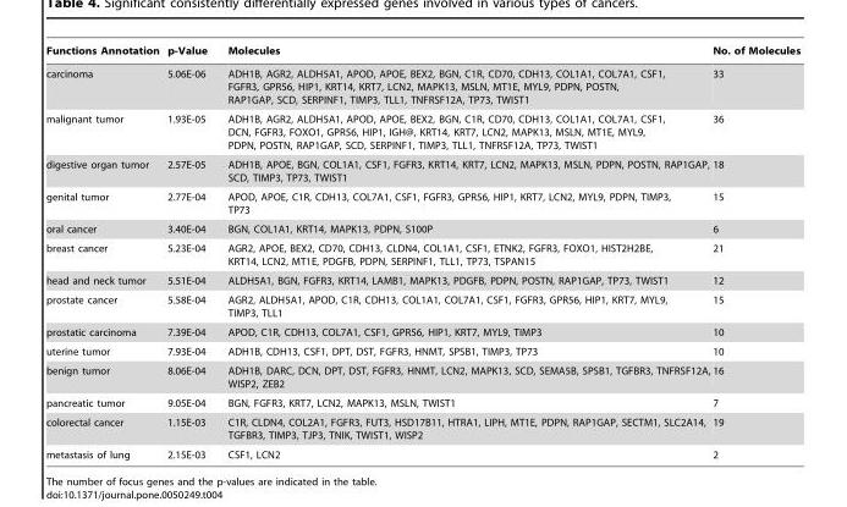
<table><thead><tr><td>Functions Annotation</td><td>p-Value</td><td>Molecules</td><td>No. of Molecules</td></tr></thead><tbody><tr><td>carcinoma</td><td>5.06E-06</td><td>ADH1B, AGR2, ALDH5A1, APOD, APOE, BEX2, BGN, C1R, CD70, CDH13, COL1A1, COL7A1, CSF1, FGFR3, GPR56, HIP1, KRT14, KRT7, LCN2, MAPK13, MSLN, MT1E, MYL9, PDPN, POSTN, RAP1GAP, SCD, SERPINF1, TIMP3, TLL1, TNFRSF12A, TP73, TWIST1</td><td>33</td></tr><tr><td>malignant tumor</td><td>1.93E-05</td><td>ADH1B, AGR2, ALDH5A1, APOD, APOE, BEX2, BGN, C1R, CD70, CDH13, COL1A1, COL7A1, CSF1, DCN, FGFR3, FOXO1, GPR56, HIP1, IGH@, KRT14, KRT7, LCN2, MAPK13, MSLN, MT1E, MYL9, PDPN, POSTN, RAP1GAP, SCD, SERPINF1, TIMP3, TLL1, TNFRSF12A, TP73, TWIST1</td><td>36</td></tr><tr><td>digestive organ tumor</td><td>2.57E-05</td><td>ADH1B, APOE, BGN, COL1A1, CSF1, FGFR3, KRT14, KRT7, LCN2, MAPK13, MSLN, PDPN, POSTN, RAP1GAP, SCD, TIMP3, TP73, TWIST1</td><td>18</td></tr><tr><td>genital tumor</td><td>2.77E-04</td><td>APOD, APOE, C1R, CDH13, COL7A1, CSF1, FGFR3, GPR56, HIP1, KRT7, LCN2, MYL9, PDPN, TIMP3, TP73</td><td>15</td></tr><tr><td>oral cancer</td><td>3.40E-04</td><td>BGN, COL1A1, KRT14, MAPK13, PDPN, S100P</td><td>6</td></tr><tr><td>breast cancer</td><td>5.23E-04</td><td>AGR2, APOE, BEX2, CD70, CDH13, CLDN4, COL1A1, CSF1, ETNK2, FGFR3, FOXO1, HIST2H2BE, KRT14, LCN2, MT1E, PDGFB, PDPN, SERPINF1, TLL1, TP73, TSPAN15</td><td>21</td></tr><tr><td>head and neck tumor</td><td>5.51E-04</td><td>ALDH5A1, BGN, FGFR3, KRT14, LAMB1, MAPK13, PDGFB, PDPN, POSTN, RAP1GAP, TP73, TWIST1</td><td>12</td></tr><tr><td>prostate cancer</td><td>5.58E-04</td><td>AGR2, ALDH5A1, APOD, C1R, CDH13, COL1A1, COL7A1, CSF1, FGFR3, GPR56, HIP1, KRT7, MYL9, TIMP3, TLL1</td><td>15</td></tr><tr><td>prostatic carcinoma</td><td>7.39E-04</td><td>APOD, C1R, CDH13, COL7A1, CSF1, GPR56, HIP1, KRT7, MYL9, TIMP3</td><td>10</td></tr><tr><td>uterine tumor</td><td>7.93E-04</td><td>ADH1B, CDH13, CSF1, DPT, DST, FGFR3, HNMT, SPSB1, TIMP3, TP73</td><td>10</td></tr><tr><td>benign tumor</td><td>8.06E-04</td><td>ADH1B, DARC, DCN, DPT, DST, FGFR3, HNMT, LCN2, MAPK13, SCD, SEMA5B, SPSB1, TGFBR3, TNFRSF12A, WISP2, ZEB2</td><td>16</td></tr><tr><td>pancreatic tumor</td><td>9.05E-04</td><td>BGN, FGFR3, KRT7, LCN2, MAPK13, MSLN, TWIST1</td><td>7</td></tr><tr><td>colorectal cancer</td><td>1.15E-03</td><td>C1R, CLDN4, COL2A1, FGFR3, FUT3, HSD17B11, HTRA1, LIPH, MT1E, PDPN, RAP1GAP, SECTM1, SLC2A14, TGFBR3, TIMP3, TJP3, TNIK, TWIST1, WISP2</td><td>19</td></tr><tr><td>metastasis of lung</td><td>2.15E-03</td><td>CSF1, LCN2</td><td>2</td></tr></tbody></table>